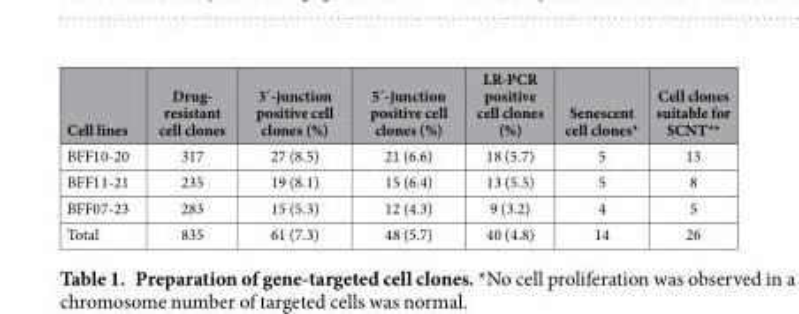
<table><thead><tr><td>Cell lines</td><td>Drug- resistant cell clones</td><td>3′-junction positive cell clones (%)</td><td>5′-junction positive cell clones (%)</td><td>LR-PCR positive cell clones (%)</td><td>Senescent cell clones*</td><td>Cell clones suitable for SCNT**</td></tr></thead><tbody><tr><td>BFF10-20</td><td>317</td><td>27 (8.5)</td><td>21 (6.6)</td><td>18 (5.7)</td><td>5</td><td>13</td></tr><tr><td>BFF11-21</td><td>235</td><td>19 (8.1)</td><td>15 (6.4)</td><td>13 (5.5)</td><td>5</td><td>8</td></tr><tr><td>BFF07-23</td><td>283</td><td>15 (5.3)</td><td>12 (4.3)</td><td>9 (3.2)</td><td>4</td><td>5</td></tr><tr><td>Total</td><td>835</td><td>61 (7.3)</td><td>48 (5.7)</td><td>40 (4.8)</td><td>14</td><td>26</td></tr></tbody></table>